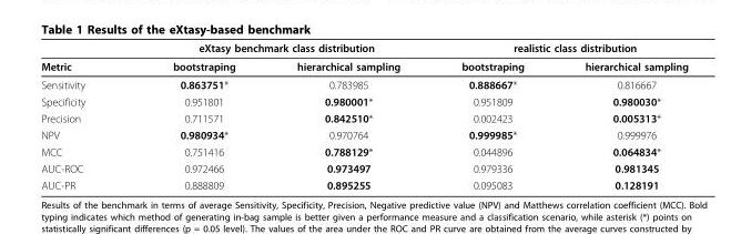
<table><thead><tr><td rowspan="2">Metric</td><td colspan="2">eXtasy benchmark class distribution</td><td colspan="2">realistic class distribution</td></tr><tr><td>bootstraping</td><td>hierarchical sampling</td><td>bootstraping</td><td>hierarchical sampling</td></tr></thead><tbody><tr><td>Sensitivity</td><td>0.863751*</td><td>0.783985</td><td>0.888667*</td><td>0.816667</td></tr><tr><td>Specificity</td><td>0.951801</td><td>0.980001*</td><td>0.951809</td><td>0.980030*</td></tr><tr><td>Precision</td><td>0.711571</td><td>0.842510*</td><td>0.002423</td><td>0.005313*</td></tr><tr><td>NPV</td><td>0.980934*</td><td>0.970764</td><td>0.999985*</td><td>0.999976</td></tr><tr><td>MCC</td><td>0.751416</td><td>0.788129*</td><td>0.044896</td><td>0.064834*</td></tr><tr><td>AUC-ROC</td><td>0.972466</td><td>0.973497</td><td>0.979336</td><td>0.981345</td></tr><tr><td>AUC-PR</td><td>0.888809</td><td>0.895255</td><td>0.095083</td><td>0.128191</td></tr></tbody></table>